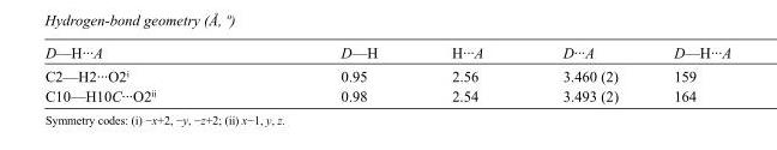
<table><tbody><tr><td>D—H···A</td><td>D—H</td><td>H···A</td><td>D···A</td><td>D—H···A</td></tr><tr><td>C2—H2···O2<sup>i</sup></td><td>0.95</td><td>2.56</td><td>3.460 (2)</td><td>159</td></tr><tr><td>C10—H10C···O2<sup>ii</sup></td><td>0.98</td><td>2.54</td><td>3.493 (2)</td><td>164</td></tr></tbody></table>